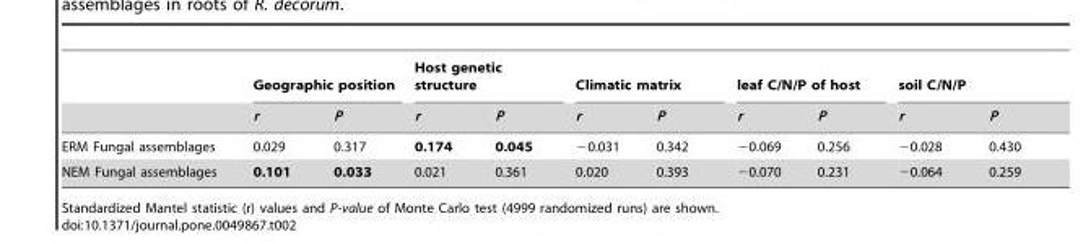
<table><thead><tr><td rowspan="2"></td><td colspan="2">Geographic position</td><td colspan="2">Host genetic structure</td><td colspan="2">Climatic matrix</td><td colspan="2">leaf C/N/P of host</td><td colspan="2">soil C/N/P</td></tr><tr><td>r</td><td>P</td><td>r</td><td>P</td><td>r</td><td>P</td><td>r</td><td>P</td><td>r</td><td>P</td></tr></thead><tbody><tr><td>ERM Fungal assemblages</td><td>0.029</td><td>0.317</td><td>0.174</td><td>0.045</td><td>−0.031</td><td>0.342</td><td>−0.069</td><td>0.256</td><td>−0.028</td><td>0.430</td></tr><tr><td>NEM Fungal assemblages</td><td>0.101</td><td>0.033</td><td>0.021</td><td>0.361</td><td>0.020</td><td>0.393</td><td>−0.070</td><td>0.231</td><td>−0.064</td><td>0.259</td></tr></tbody></table>